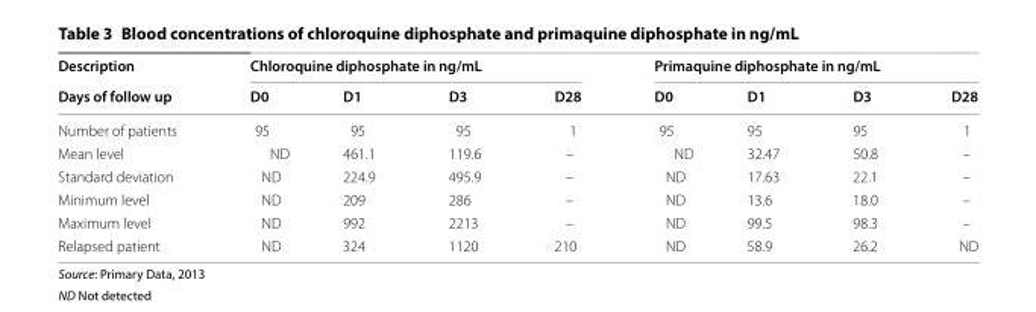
<table><thead><tr><td rowspan="2">Description Days of follow up</td><td colspan="4">Chloroquine diphosphate in ng/mL</td><td colspan="4">Primaquine diphosphate in ng/mL</td></tr><tr><td>D0</td><td>D1</td><td>D3</td><td>D28</td><td>D0</td><td>D1</td><td>D3</td><td>D28</td></tr></thead><tbody><tr><td>Number of patients</td><td>95</td><td>95</td><td>95</td><td>1</td><td>95</td><td>95</td><td>95</td><td>1</td></tr><tr><td>Mean level</td><td>ND</td><td>461.1</td><td>119.6</td><td>–</td><td>ND</td><td>32.47</td><td>50.8</td><td>–</td></tr><tr><td>Standard deviation</td><td>ND</td><td>224.9</td><td>495.9</td><td>–</td><td>ND</td><td>17.63</td><td>22.1</td><td>–</td></tr><tr><td>Minimum level</td><td>ND</td><td>209</td><td>286</td><td>–</td><td>ND</td><td>13.6</td><td>18.0</td><td>–</td></tr><tr><td>Maximum level</td><td>ND</td><td>992</td><td>2213</td><td>–</td><td>ND</td><td>99.5</td><td>98.3</td><td>–</td></tr><tr><td>Relapsed patient</td><td>ND</td><td>324</td><td>1120</td><td>210</td><td>ND</td><td>58.9</td><td>26.2</td><td>ND</td></tr></tbody></table>